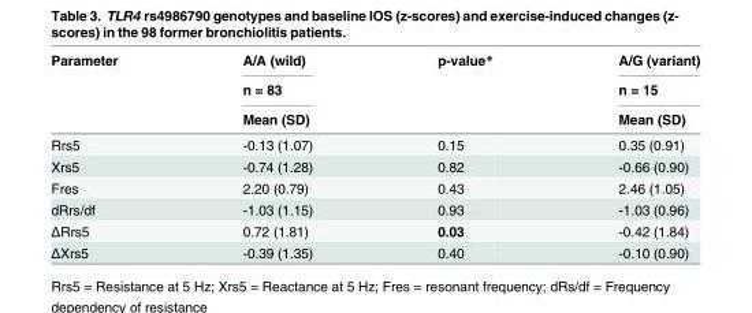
<table><thead><tr><td rowspan="3">Parameter</td><td rowspan="3">A/A (wild) n = 83 Mean (SD)</td><td rowspan="3">p-value*</td><td rowspan="3">A/G (variant) n = 15 Mean (SD)</td></tr><tr></tr><tr></tr></thead><tbody><tr><td>Rrs5</td><td>-0.13 (1.07)</td><td>0.15</td><td>0.35 (0.91)</td></tr><tr><td>Xrs5</td><td>-0.74 (1.28)</td><td>0.82</td><td>-0.66 (0.90)</td></tr><tr><td>Fres</td><td>2.20 (0.79)</td><td>0.43</td><td>2.46 (1.05)</td></tr><tr><td>dRrs/df</td><td>-1.03 (1.15)</td><td>0.93</td><td>-1.03 (0.96)</td></tr><tr><td>ΔRrs5</td><td>0.72 (1.81)</td><td>0.03</td><td>-0.42 (1.84)</td></tr><tr><td>ΔXrs5</td><td>-0.39 (1.35)</td><td>0.40</td><td>-0.10 (0.90)</td></tr></tbody></table>